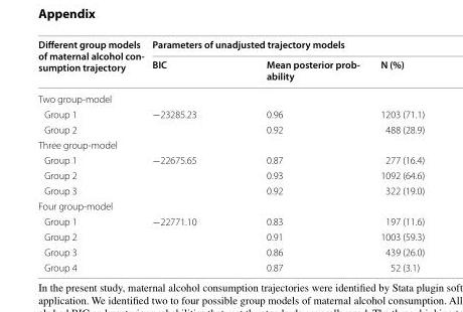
<table><thead><tr><td rowspan="2">Different group models of maternal alcohol con- sumption trajectory</td><td colspan="3">Parameters of unadjusted trajectory models</td></tr><tr><td>BIC</td><td>Mean posterior prob- ability</td><td>N (%)</td></tr></thead><tbody><tr><td colspan="4">Two group-model</td></tr><tr><td>Group 1</td><td rowspan="2">−23285.23</td><td>0.96</td><td>1203 (71.1)</td></tr><tr><td>Group 2</td><td>0.92</td><td>488 (28.9)</td></tr><tr><td colspan="4">Three group-model</td></tr><tr><td>Group 1</td><td rowspan="3">−22675.65</td><td>0.87</td><td>277 (16.4)</td></tr><tr><td>Group 2</td><td>0.93</td><td>1092 (64.6)</td></tr><tr><td>Group 3</td><td>0.92</td><td>322 (19.0)</td></tr><tr><td colspan="4">Four group-model</td></tr><tr><td>Group 1</td><td rowspan="4">−22771.10</td><td>0.83</td><td>197 (11.6)</td></tr><tr><td>Group 2</td><td>0.91</td><td>1003 (59.3)</td></tr><tr><td>Group 3</td><td>0.86</td><td>439 (26.0)</td></tr><tr><td>Group 4</td><td>0.87</td><td>52 (3.1)</td></tr></tbody></table>